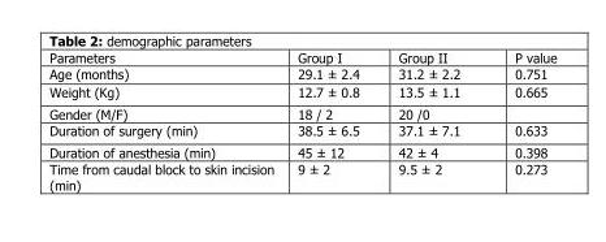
<table><thead><tr><td>Parameters</td><td>Group I</td><td>Group II</td><td>P value</td></tr></thead><tbody><tr><td>Age (months)</td><td>29.1 ± 2.4</td><td>31.2 ± 2.2</td><td>0.751</td></tr><tr><td>Weight (Kg)</td><td>12.7 ± 0.8</td><td>13.5 ± 1.1</td><td>0.665</td></tr><tr><td>Gender (M/F)</td><td>18 / 2</td><td>20 /0</td><td></td></tr><tr><td>Duration of surgery (min)</td><td>38.5 ± 6.5</td><td>37.1 ± 7.1</td><td>0.633</td></tr><tr><td>Duration of anesthesia (min)</td><td>45 ± 12</td><td>42 ± 4</td><td>0.398</td></tr><tr><td>Time from caudal block to skin incision (min)</td><td>9 ± 2</td><td>9.5 ± 2</td><td>0.273</td></tr></tbody></table>